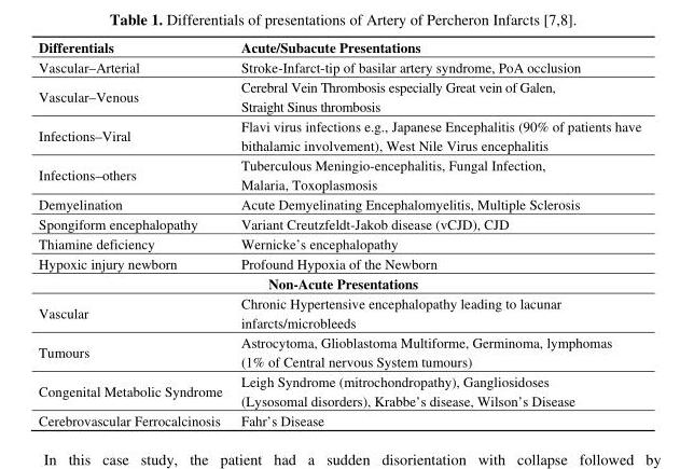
<table><thead><tr><td>Differentials</td><td>Acute/Subacute Presentations</td></tr></thead><tbody><tr><td>Vascular–Arterial</td><td>Stroke-Infarct-tip of basilar artery syndrome, PoA occlusion</td></tr><tr><td>Vascular–Venous</td><td>Cerebral Vein Thrombosis especially Great vein of Galen, Straight Sinus thrombosis</td></tr><tr><td>Infections–Viral</td><td>Flavi virus infections e.g., Japanese Encephalitis (90% of patients have bithalamic involvement), West Nile Virus encephalitis</td></tr><tr><td>Infections–others</td><td>Tuberculous Meningio-encephalitis, Fungal Infection, Malaria, Toxoplasmosis</td></tr><tr><td>Demyelination</td><td>Acute Demyelinating Encephalomyelitis, Multiple Sclerosis</td></tr><tr><td>Spongiform encephalopathy</td><td>Variant Creutzfeldt-Jakob disease (vCJD), CJD</td></tr><tr><td>Thiamine deficiency</td><td>Wernicke’s encephalopathy</td></tr><tr><td>Hypoxic injury newborn</td><td>Profound Hypoxia of the Newborn</td></tr><tr><td colspan="2">Non-Acute Presentations</td></tr><tr><td>Vascular</td><td>Chronic Hypertensive encephalopathy leading to lacunar infarcts/microbleeds</td></tr><tr><td>Tumours</td><td>Astrocytoma, Glioblastoma Multiforme, Germinoma, lymphomas (1% of Central nervous System tumours)</td></tr><tr><td>Congenital Metabolic Syndrome</td><td>Leigh Syndrome (mitrochondropathy), Gangliosidoses (Lysosomal disorders), Krabbe’s disease, Wilson’s Disease</td></tr><tr><td>Cerebrovascular Ferrocalcinosis</td><td>Fahr’s Disease</td></tr></tbody></table>